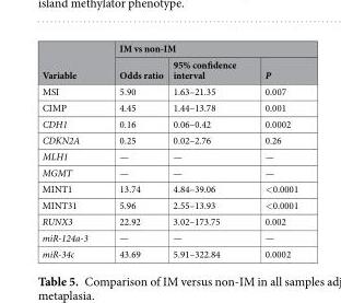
<table><thead><tr><td rowspan="2">Variable</td><td colspan="3">IM vs non-IM</td></tr><tr><td>Odds ratio</td><td>95% confidence interval</td><td>P</td></tr></thead><tbody><tr><td>MSI</td><td>5.90</td><td>1.63–21.35</td><td>0.007</td></tr><tr><td>CIMP</td><td>4.45</td><td>1.44–13.78</td><td>0.001</td></tr><tr><td>CDH1</td><td>0.16</td><td>0.06–0.42</td><td>0.0002</td></tr><tr><td>CDKN2A</td><td>0.25</td><td>0.02–2.76</td><td>0.26</td></tr><tr><td>MLH1</td><td>—</td><td>—</td><td>—</td></tr><tr><td>MGMT</td><td>—</td><td>—</td><td>—</td></tr><tr><td>MINT1</td><td>13.74</td><td>4.84–39.06</td><td>&lt;0.0001</td></tr><tr><td>MINT31</td><td>5.96</td><td>2.55–13.93</td><td>&lt;0.0001</td></tr><tr><td>RUNX3</td><td>22.92</td><td>3.02–173.75</td><td>0.002</td></tr><tr><td>miR-124a-3</td><td>—</td><td>—</td><td>—</td></tr><tr><td>miR-34c</td><td>43.69</td><td>5.91–322.84</td><td>0.0002</td></tr></tbody></table>